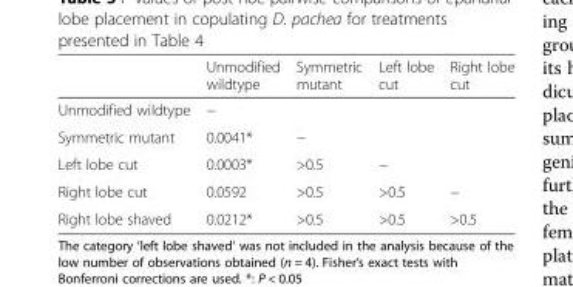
<table><thead><tr><td></td><td>Unmodified wildtype</td><td>Symmetric mutant</td><td>Left lobe cut</td><td>Right lobe cut</td></tr></thead><tbody><tr><td>Unmodified wildtype</td><td>−</td><td></td><td></td><td></td></tr><tr><td>Symmetric mutant</td><td>0.0041*</td><td>−</td><td></td><td></td></tr><tr><td>Left lobe cut</td><td>0.0003*</td><td>&gt;0.5</td><td>−</td><td></td></tr><tr><td>Right lobe cut</td><td>0.0592</td><td>&gt;0.5</td><td>&gt;0.5</td><td>−</td></tr><tr><td>Right lobe shaved</td><td>0.0212*</td><td>&gt;0.5</td><td>&gt;0.5</td><td>&gt;0.5</td></tr></tbody></table>